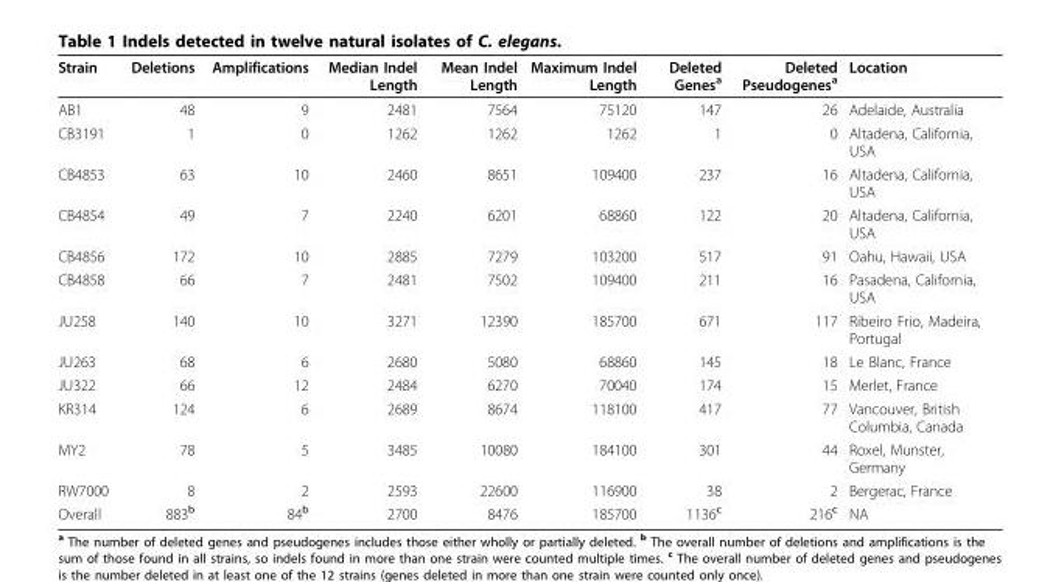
<table><thead><tr><td>Strain</td><td>Deletions</td><td>Amplifications</td><td>Median Indel Length</td><td>Mean Indel Length</td><td>Maximum Indel Length</td><td>Deleted Genes<sup>a</sup></td><td>Deleted Pseudogenes<sup>a</sup></td><td>Location</td></tr></thead><tbody><tr><td>AB1</td><td>48</td><td>9</td><td>2481</td><td>7564</td><td>75120</td><td>147</td><td>26</td><td>Adelaide, Australia</td></tr><tr><td>CB3191</td><td>1</td><td>0</td><td>1262</td><td>1262</td><td>1262</td><td>1</td><td>0</td><td>Altadena, California, USA</td></tr><tr><td>CB4853</td><td>63</td><td>10</td><td>2460</td><td>8651</td><td>109400</td><td>237</td><td>16</td><td>Altadena, California, USA</td></tr><tr><td>CB4854</td><td>49</td><td>7</td><td>2240</td><td>6201</td><td>68860</td><td>122</td><td>20</td><td>Altadena, California, USA</td></tr><tr><td>CB4856</td><td>172</td><td>10</td><td>2885</td><td>7279</td><td>103200</td><td>517</td><td>91</td><td>Oahu, Hawaii, USA</td></tr><tr><td>CB4858</td><td>66</td><td>7</td><td>2481</td><td>7502</td><td>109400</td><td>211</td><td>16</td><td>Pasadena, California, USA</td></tr><tr><td>JU258</td><td>140</td><td>10</td><td>3271</td><td>12390</td><td>185700</td><td>671</td><td>117</td><td>Ribeiro Frio, Madeira, Portugal</td></tr><tr><td>JU263</td><td>68</td><td>6</td><td>2680</td><td>5080</td><td>68860</td><td>145</td><td>18</td><td>Le Blanc, France</td></tr><tr><td>JU322</td><td>66</td><td>12</td><td>2484</td><td>6270</td><td>70040</td><td>174</td><td>15</td><td>Merlet, France</td></tr><tr><td>KR314</td><td>124</td><td>6</td><td>2689</td><td>8674</td><td>118100</td><td>417</td><td>77</td><td>Vancouver, British Columbia, Canada</td></tr><tr><td>MY2</td><td>78</td><td>5</td><td>3485</td><td>10080</td><td>184100</td><td>301</td><td>44</td><td>Roxel, Munster, Germany</td></tr><tr><td>RW7000</td><td>8</td><td>2</td><td>2593</td><td>22600</td><td>116900</td><td>38</td><td>2</td><td>Bergerac, France</td></tr><tr><td>Overall</td><td>883<sup>b</sup></td><td>84<sup>b</sup></td><td>2700</td><td>8476</td><td>185700</td><td>1136<sup>c</sup></td><td>216<sup>c</sup></td><td>NA</td></tr></tbody></table>